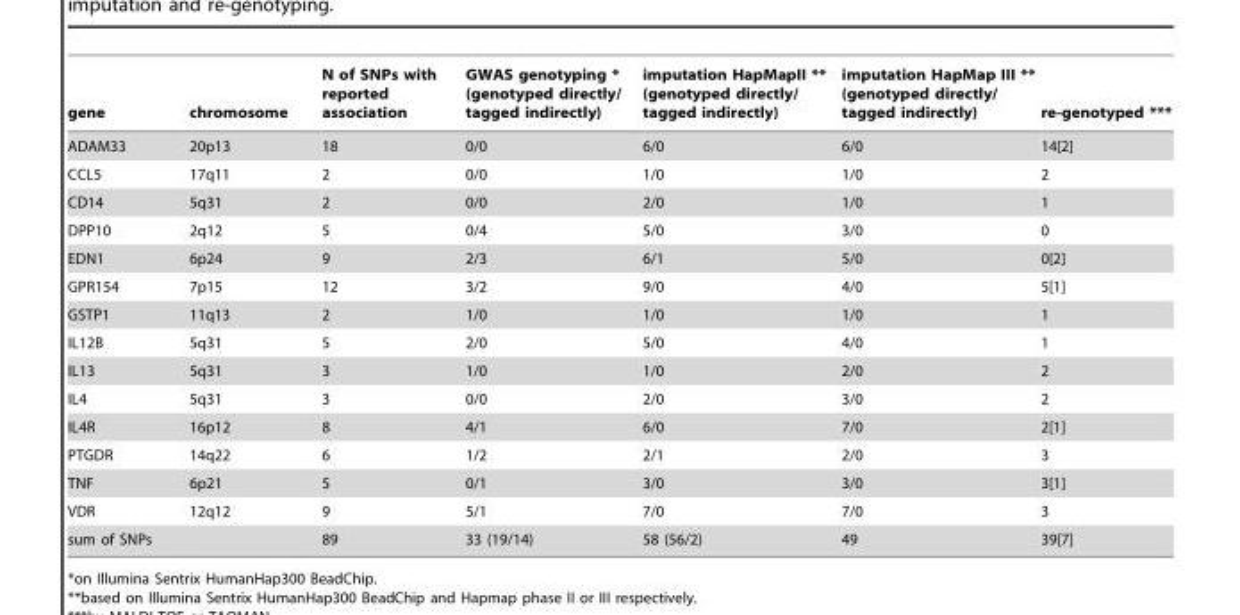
<table><thead><tr><td>gene</td><td>chromosome</td><td>N of SNPs with reported association</td><td>GWAS genotyping * (genotyped directly/ tagged indirectly)</td><td>imputation HapMapII ** (genotyped directly/ tagged indirectly)</td><td>imputation HapMap III ** (genotyped directly/ tagged indirectly)</td><td>re-genotyped ***</td></tr></thead><tbody><tr><td>ADAM33</td><td>20p13</td><td>18</td><td>0/0</td><td>6/0</td><td>6/0</td><td>14[2]</td></tr><tr><td>CCL5</td><td>17q11</td><td>2</td><td>0/0</td><td>1/0</td><td>1/0</td><td>2</td></tr><tr><td>CD14</td><td>5q31</td><td>2</td><td>0/0</td><td>2/0</td><td>1/0</td><td>1</td></tr><tr><td>DPP10</td><td>2q12</td><td>5</td><td>0/4</td><td>5/0</td><td>3/0</td><td>0</td></tr><tr><td>EDN1</td><td>6p24</td><td>9</td><td>2/3</td><td>6/1</td><td>5/0</td><td>0[2]</td></tr><tr><td>GPR154</td><td>7p15</td><td>12</td><td>3/2</td><td>9/0</td><td>4/0</td><td>5[1]</td></tr><tr><td>GSTP1</td><td>11q13</td><td>2</td><td>1/0</td><td>1/0</td><td>1/0</td><td>1</td></tr><tr><td>IL12B</td><td>5q31</td><td>5</td><td>2/0</td><td>5/0</td><td>4/0</td><td>1</td></tr><tr><td>IL13</td><td>5q31</td><td>3</td><td>1/0</td><td>1/0</td><td>2/0</td><td>2</td></tr><tr><td>IL4</td><td>5q31</td><td>3</td><td>0/0</td><td>2/0</td><td>3/0</td><td>2</td></tr><tr><td>IL4R</td><td>16p12</td><td>8</td><td>4/1</td><td>6/0</td><td>7/0</td><td>2[1]</td></tr><tr><td>PTGDR</td><td>14q22</td><td>6</td><td>1/2</td><td>2/1</td><td>2/0</td><td>3</td></tr><tr><td>TNF</td><td>6p21</td><td>5</td><td>0/1</td><td>3/0</td><td>3/0</td><td>3[1]</td></tr><tr><td>VDR</td><td>12q12</td><td>9</td><td>5/1</td><td>7/0</td><td>7/0</td><td>3</td></tr><tr><td>sum of SNPs</td><td></td><td>89</td><td>33 (19/14)</td><td>58 (56/2)</td><td>49</td><td>39[7]</td></tr></tbody></table>